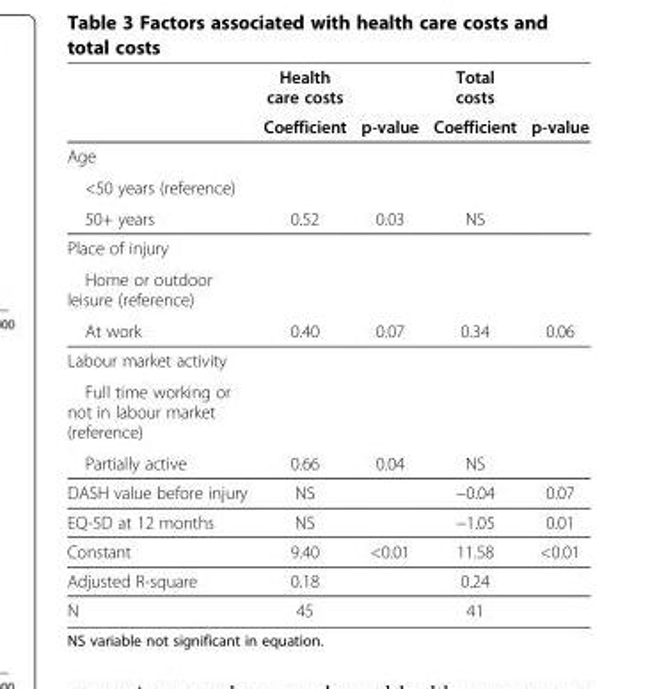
<table><thead><tr><td rowspan="2"></td><td rowspan="2">Health care costs Coefficient</td><td rowspan="2">p-value</td><td rowspan="2">Total costs Coefficient</td><td rowspan="2">p-value</td></tr><tr></tr></thead><tbody><tr><td colspan="5">Age</td></tr><tr><td colspan="5">&lt;50 years (reference)</td></tr><tr><td>50+ years</td><td>0.52</td><td>0.03</td><td>NS</td><td></td></tr><tr><td colspan="5">Place of injury</td></tr><tr><td colspan="5">Home or outdoor leisure (reference)</td></tr><tr><td>At work</td><td>0.40</td><td>0.07</td><td>0.34</td><td>0.06</td></tr><tr><td colspan="5">Labour market activity</td></tr><tr><td colspan="5">Full time working or not in labour market (reference)</td></tr><tr><td>Partially active</td><td>0.66</td><td>0.04</td><td>NS</td><td></td></tr><tr><td>DASH value before injury</td><td>NS</td><td></td><td>−0.04</td><td>0.07</td></tr><tr><td>EQ-5D at 12 months</td><td>NS</td><td></td><td>−1.05</td><td>0.01</td></tr><tr><td>Constant</td><td>9.40</td><td>&lt;0.01</td><td>11.58</td><td>&lt;0.01</td></tr><tr><td>Adjusted R-square</td><td>0.18</td><td></td><td>0.24</td><td></td></tr><tr><td>N</td><td>45</td><td></td><td>41</td><td></td></tr></tbody></table>